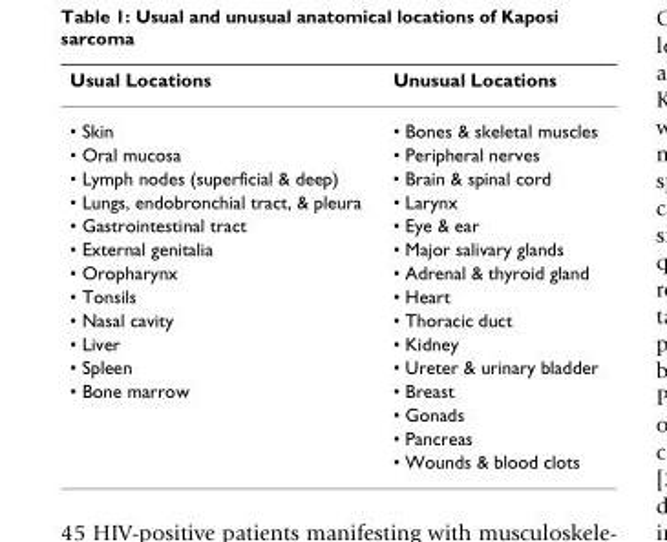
<table><thead><tr><td>Usual Locations</td><td>Unusual Locations</td></tr></thead><tbody><tr><td>• Skin</td><td>• Bones &amp; skeletal muscles</td></tr><tr><td>• Oral mucosa</td><td>• Peripheral nerves</td></tr><tr><td>• Lymph nodes (superficial &amp; deep)</td><td>• Brain &amp; spinal cord</td></tr><tr><td>• Lungs, endobronchial tract, &amp; pleura</td><td>• Larynx</td></tr><tr><td>• Gastrointestinal tract</td><td>• Eye &amp; ear</td></tr><tr><td>• External genitalia</td><td>• Major salivary glands</td></tr><tr><td>• Oropharynx</td><td>• Adrenal &amp; thyroid gland</td></tr><tr><td>• Tonsils</td><td>• Heart</td></tr><tr><td>• Nasal cavity</td><td>• Thoracic duct</td></tr><tr><td>• Liver</td><td>• Kidney</td></tr><tr><td>• Spleen</td><td>• Ureter &amp; urinary bladder</td></tr><tr><td rowspan="4">• Bone marrow</td><td>• Breast</td></tr><tr><td>• Gonads</td></tr><tr><td>• Pancreas</td></tr><tr><td>• Wounds &amp; blood clots</td></tr></tbody></table>